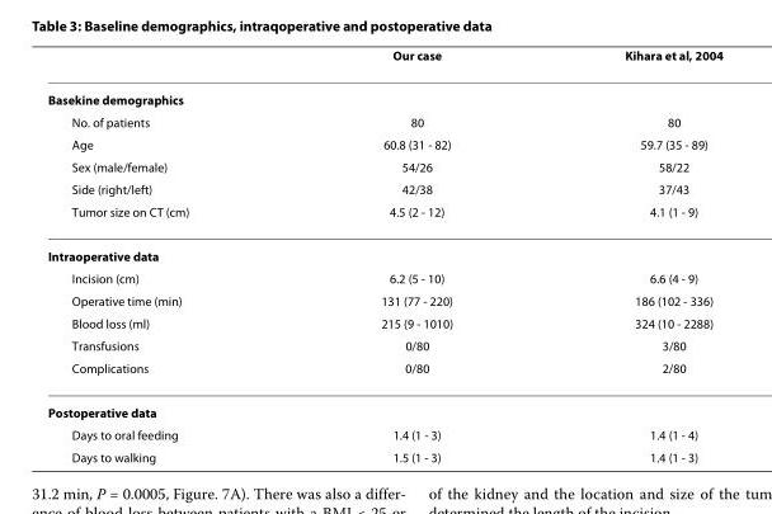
<table><thead><tr><td></td><td>Our case</td><td>Kihara et al, 2004</td></tr></thead><tbody><tr><td colspan="3">Basekine demographics</td></tr><tr><td>No. of patients</td><td>80</td><td>80</td></tr><tr><td>Age</td><td>60.8 (31 - 82)</td><td>59.7 (35 - 89)</td></tr><tr><td>Sex (male/female)</td><td>54/26</td><td>58/22</td></tr><tr><td>Side (right/left)</td><td>42/38</td><td>37/43</td></tr><tr><td>Tumor size on CT (cm)</td><td>4.5 (2 - 12)</td><td>4.1 (1 - 9)</td></tr><tr><td colspan="3">Intraoperative data</td></tr><tr><td>Incision (cm)</td><td>6.2 (5 - 10)</td><td>6.6 (4 - 9)</td></tr><tr><td>Operative time (min)</td><td>131 (77 - 220)</td><td>186 (102 - 336)</td></tr><tr><td>Blood loss (ml)</td><td>215 (9 - 1010)</td><td>324 (10 - 2288)</td></tr><tr><td>Transfusions</td><td>0/80</td><td>3/80</td></tr><tr><td>Complications</td><td>0/80</td><td>2/80</td></tr><tr><td colspan="3">Postoperative data</td></tr><tr><td>Days to oral feeding</td><td>1.4 (1 - 3)</td><td>1.4 (1 - 4)</td></tr><tr><td>Days to walking</td><td>1.5 (1 - 3)</td><td>1.4 (1 - 3)</td></tr></tbody></table>